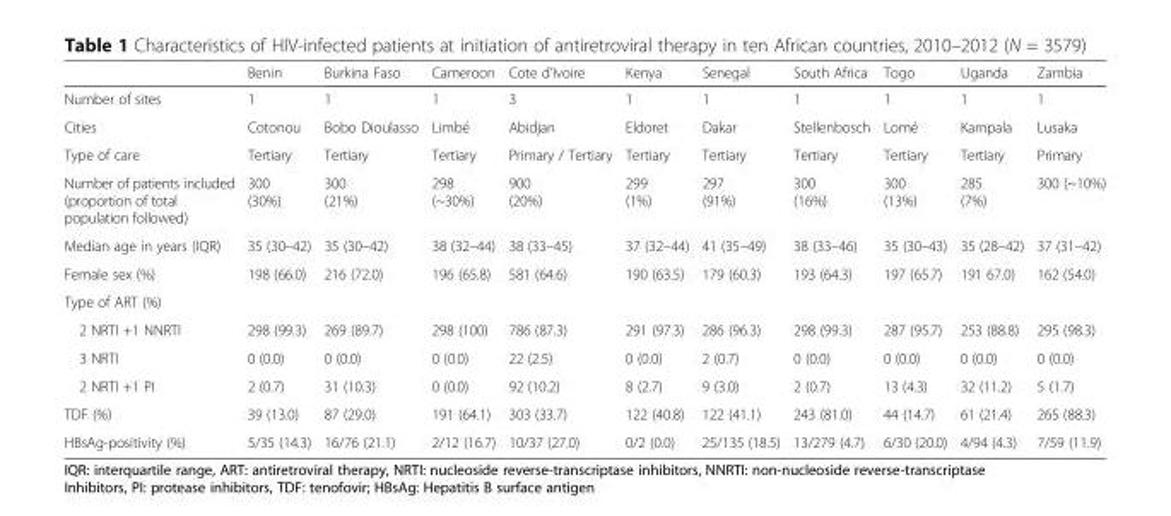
<table><thead><tr><td></td><td>Benin</td><td>Burkina Faso</td><td>Cameroon</td><td>Cote d’Ivoire</td><td>Kenya</td><td>Senegal</td><td>South Africa</td><td>Togo</td><td>Uganda</td><td>Zambia</td></tr></thead><tbody><tr><td>Number of sites</td><td>1</td><td>1</td><td>1</td><td>3</td><td>1</td><td>1</td><td>1</td><td>1</td><td>1</td><td>1</td></tr><tr><td>Cities</td><td>Cotonou</td><td>Bobo Dioulasso</td><td>Limbé</td><td>Abidjan</td><td>Eldoret</td><td>Dakar</td><td>Stellenbosch</td><td>Lomé</td><td>Kampala</td><td>Lusaka</td></tr><tr><td>Type of care</td><td>Tertiary</td><td>Tertiary</td><td>Tertiary</td><td>Primary / Tertiary</td><td>Tertiary</td><td>Tertiary</td><td>Tertiary</td><td>Tertiary</td><td>Tertiary</td><td>Primary</td></tr><tr><td>Number of patients included (proportion of total population followed)</td><td>300 (30%)</td><td>300 (21%)</td><td>298 (~30%)</td><td>900 (20%)</td><td>299 (1%)</td><td>297 (91%)</td><td>300 (16%)</td><td>300 (13%)</td><td>285 (7%)</td><td>300 (~10%)</td></tr><tr><td>Median age in years (IQR)</td><td>35 (30–42)</td><td>35 (30–42)</td><td>38 (32–44)</td><td>38 (33–45)</td><td>37 (32–44)</td><td>41 (35–49)</td><td>38 (33–46)</td><td>35 (30–43)</td><td>35 (28–42)</td><td>37 (31–42)</td></tr><tr><td>Female sex (%)</td><td>198 (66.0)</td><td>216 (72.0)</td><td>196 (65.8)</td><td>581 (64.6)</td><td>190 (63.5)</td><td>179 (60.3)</td><td>193 (64.3)</td><td>197 (65.7)</td><td>191 67.0)</td><td>162 (54.0)</td></tr><tr><td colspan="11">Type of ART (%)</td></tr><tr><td>2 NRTI +1 NNRTI</td><td>298 (99.3)</td><td>269 (89.7)</td><td>298 (100)</td><td>786 (87.3)</td><td>291 (97.3)</td><td>286 (96.3)</td><td>298 (99.3)</td><td>287 (95.7)</td><td>253 (88.8)</td><td>295 (98.3)</td></tr><tr><td>3 NRTI</td><td>0 (0.0)</td><td>0 (0.0)</td><td>0 (0.0)</td><td>22 (2.5)</td><td>0 (0.0)</td><td>2 (0.7)</td><td>0 (0.0)</td><td>0 (0.0)</td><td>0 (0.0)</td><td>0 (0.0)</td></tr><tr><td>2 NRTI +1 PI</td><td>2 (0.7)</td><td>31 (10.3)</td><td>0 (0.0)</td><td>92 (10.2)</td><td>8 (2.7)</td><td>9 (3.0)</td><td>2 (0.7)</td><td>13 (4.3)</td><td>32 (11.2)</td><td>5 (1.7)</td></tr><tr><td>TDF (%)</td><td>39 (13.0)</td><td>87 (29.0)</td><td>191 (64.1)</td><td>303 (33.7)</td><td>122 (40.8)</td><td>122 (41.1)</td><td>243 (81.0)</td><td>44 (14.7)</td><td>61 (21.4)</td><td>265 (88.3)</td></tr><tr><td>HBsAg-positivity (%)</td><td>5/35 (14.3)</td><td>16/76 (21.1)</td><td>2/12 (16.7)</td><td>10/37 (27.0)</td><td>0/2 (0.0)</td><td>25/135 (18.5)</td><td>13/279 (4.7)</td><td>6/30 (20.0)</td><td>4/94 (4.3)</td><td>7/59 (11.9)</td></tr></tbody></table>